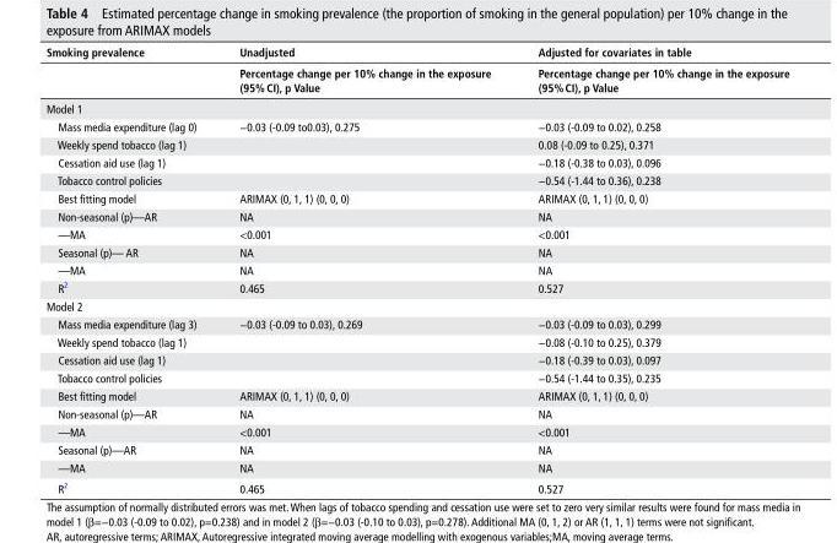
<table><thead><tr><td rowspan="2">smoking prevalence</td><td rowspan="2">unadjusted Percentage change per 10% change in the exposure (95% CI), p Value</td><td rowspan="2">Adjusted for covariates in table Percentage change per 10% change in the exposure (95% CI), p Value</td></tr><tr></tr></thead><tbody><tr><td colspan="3">Model 1</td></tr><tr><td>Mass media expenditure (lag 0)</td><td>−0.03 (-0.09 to0.03), 0.275</td><td>−0.03 (-0.09 to 0.02), 0.258</td></tr><tr><td>Weekly spend tobacco (lag 1)</td><td></td><td>0.08 (-0.09 to 0.25), 0.371</td></tr><tr><td>Cessation aid use (lag 1)</td><td></td><td>−0.18 (-0.38 to 0.03), 0.096</td></tr><tr><td>Tobacco control policies</td><td></td><td>−0.54 (-1.44 to 0.36), 0.238</td></tr><tr><td>Best fitting model</td><td>ARIMAX (0, 1, 1) (0, 0, 0)</td><td>ARIMAX (0, 1, 1) (0, 0, 0)</td></tr><tr><td>Non-seasonal (p)—AR</td><td>NA</td><td>NA</td></tr><tr><td>—MA</td><td>&lt;0.001</td><td>&lt;0.001</td></tr><tr><td>Seasonal (p)— AR</td><td>NA</td><td>NA</td></tr><tr><td>—MA</td><td>NA</td><td>NA</td></tr><tr><td>R<sup>2</sup></td><td>0.465</td><td>0.527</td></tr><tr><td colspan="3">Model 2</td></tr><tr><td>Mass media expenditure (lag 3)</td><td>−0.03 (-0.09 to 0.03), 0.269</td><td>−0.03 (-0.09 to 0.03), 0.299</td></tr><tr><td>Weekly spend tobacco (lag 1)</td><td></td><td>−0.08 (-0.10 to 0.25), 0.379</td></tr><tr><td>Cessation aid use (lag 1)</td><td></td><td>−0.18 (-0.39 to 0.03), 0.097</td></tr><tr><td>Tobacco control policies</td><td></td><td>−0.54 (-1.44 to 0.35), 0.235</td></tr><tr><td>Best fitting model</td><td>ARIMAX (0, 1, 1) (0, 0, 0)</td><td>ARIMAX (0, 1, 1) (0, 0, 0)</td></tr><tr><td>Non-seasonal (p)—AR</td><td>NA</td><td>NA</td></tr><tr><td>—MA</td><td>&lt;0.001</td><td>&lt;0.001</td></tr><tr><td>Seasonal (p)—AR</td><td>NA</td><td>NA</td></tr><tr><td>—MA</td><td>NA</td><td>NA</td></tr><tr><td>R<sup>2</sup></td><td>0.465</td><td>0.527</td></tr></tbody></table>